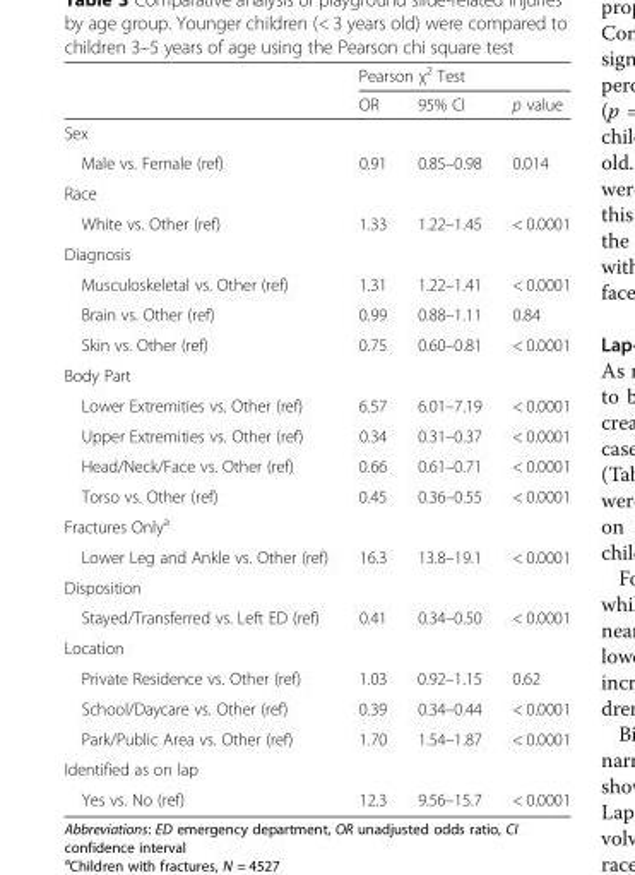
<table><thead><tr><td rowspan="2"></td><td colspan="3">Pearson χ<sup>2</sup> Test</td></tr><tr><td>OR</td><td>95% CI</td><td>p value</td></tr></thead><tbody><tr><td colspan="4">Sex</td></tr><tr><td>Male vs. Female (ref)</td><td>0.91</td><td>0.85–0.98</td><td>0.014</td></tr><tr><td colspan="4">Race</td></tr><tr><td>White vs. Other (ref)</td><td>1.33</td><td>1.22–1.45</td><td>&lt; 0.0001</td></tr><tr><td colspan="4">Diagnosis</td></tr><tr><td>Musculoskeletal vs. Other (ref)</td><td>1.31</td><td>1.22–1.41</td><td>&lt; 0.0001</td></tr><tr><td>Brain vs. Other (ref)</td><td>0.99</td><td>0.88–1.11</td><td>0.84</td></tr><tr><td>Skin vs. Other (ref)</td><td>0.75</td><td>0.60–0.81</td><td>&lt; 0.0001</td></tr><tr><td colspan="4">Body Part</td></tr><tr><td>Lower Extremities vs. Other (ref)</td><td>6.57</td><td>6.01–7.19</td><td>&lt; 0.0001</td></tr><tr><td>Upper Extremities vs. Other (ref)</td><td>0.34</td><td>0.31–0.37</td><td>&lt; 0.0001</td></tr><tr><td>Head/Neck/Face vs. Other (ref)</td><td>0.66</td><td>0.61–0.71</td><td>&lt; 0.0001</td></tr><tr><td>Torso vs. Other (ref)</td><td>0.45</td><td>0.36–0.55</td><td>&lt; 0.0001</td></tr><tr><td colspan="4">Fractures Only<sup>a</sup></td></tr><tr><td>Lower Leg and Ankle vs. Other (ref)</td><td>16.3</td><td>13.8–19.1</td><td>&lt; 0.0001</td></tr><tr><td colspan="4">Disposition</td></tr><tr><td>Stayed/Transferred vs. Left ED (ref)</td><td>0.41</td><td>0.34–0.50</td><td>&lt; 0.0001</td></tr><tr><td colspan="4">Location</td></tr><tr><td>Private Residence vs. Other (ref)</td><td>1.03</td><td>0.92–1.15</td><td>0.62</td></tr><tr><td>School/Daycare vs. Other (ref)</td><td>0.39</td><td>0.34–0.44</td><td>&lt; 0.0001</td></tr><tr><td>Park/Public Area vs. Other (ref)</td><td>1.70</td><td>1.54–1.87</td><td>&lt; 0.0001</td></tr><tr><td colspan="4">Identified as on lap</td></tr><tr><td>Yes vs. No (ref)</td><td>12.3</td><td>9.56–15.7</td><td>&lt; 0.0001</td></tr></tbody></table>